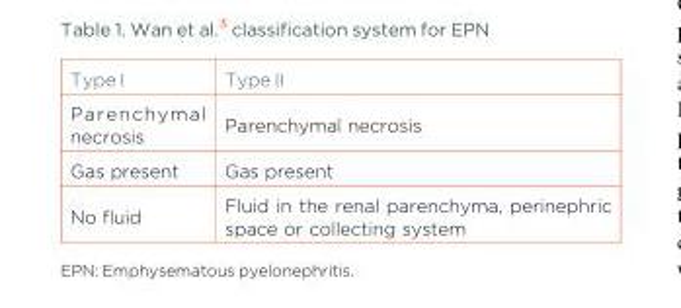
<table><tbody><tr><td>Type I</td><td>Type II</td></tr><tr><td>Parenchymal necrosis</td><td>Parenchymal necrosis</td></tr><tr><td>Gas present</td><td>Gas present</td></tr><tr><td>No fluid</td><td>Fluid in the renal parenchyma, perinephric space or collecting system</td></tr></tbody></table>